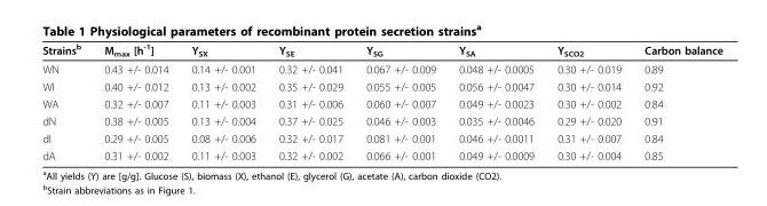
<table><thead><tr><td>Strains<sup>b</sup></td><td>Μ<sub>max</sub> [h<sup>-1</sup>]</td><td>Y<sub>SX</sub></td><td>Y<sub>SE</sub></td><td>Y<sub>SG</sub></td><td>Y<sub>SA</sub></td><td>Y<sub>SCO2</sub></td><td>Carbon balance</td></tr></thead><tbody><tr><td>WN</td><td>0.43 +/- 0.014</td><td>0.14 +/- 0.001</td><td>0.32 +/- 0.041</td><td>0.067 +/- 0.009</td><td>0.048 +/- 0.0005</td><td>0.30 +/- 0.019</td><td>0.89</td></tr><tr><td>WI</td><td>0.40 +/- 0.012</td><td>0.13 +/- 0.002</td><td>0.35 +/- 0.029</td><td>0.055 +/- 0.005</td><td>0.056 +/- 0.0047</td><td>0.30 +/- 0.014</td><td>0.92</td></tr><tr><td>WA</td><td>0.32 +/- 0.007</td><td>0.11 +/- 0.003</td><td>0.31 +/- 0.006</td><td>0.060 +/- 0.007</td><td>0.049 +/- 0.0023</td><td>0.30 +/- 0.002</td><td>0.84</td></tr><tr><td>dN</td><td>0.38 +/- 0.005</td><td>0.13 +/- 0.004</td><td>0.37 +/- 0.025</td><td>0.046 +/- 0.003</td><td>0.035 +/- 0.0046</td><td>0.29 +/- 0.020</td><td>0.91</td></tr><tr><td>dI</td><td>0.29 +/- 0.005</td><td>0.08 +/- 0.006</td><td>0.32 +/- 0.017</td><td>0.081 +/- 0.001</td><td>0.046 +/- 0.0011</td><td>0.31 +/- 0.007</td><td>0.84</td></tr><tr><td>dA</td><td>0.31 +/- 0.002</td><td>0.11 +/- 0.003</td><td>0.32 +/- 0.002</td><td>0.066 +/- 0.001</td><td>0.049 +/- 0.0009</td><td>0.30 +/- 0.004</td><td>0.85</td></tr></tbody></table>